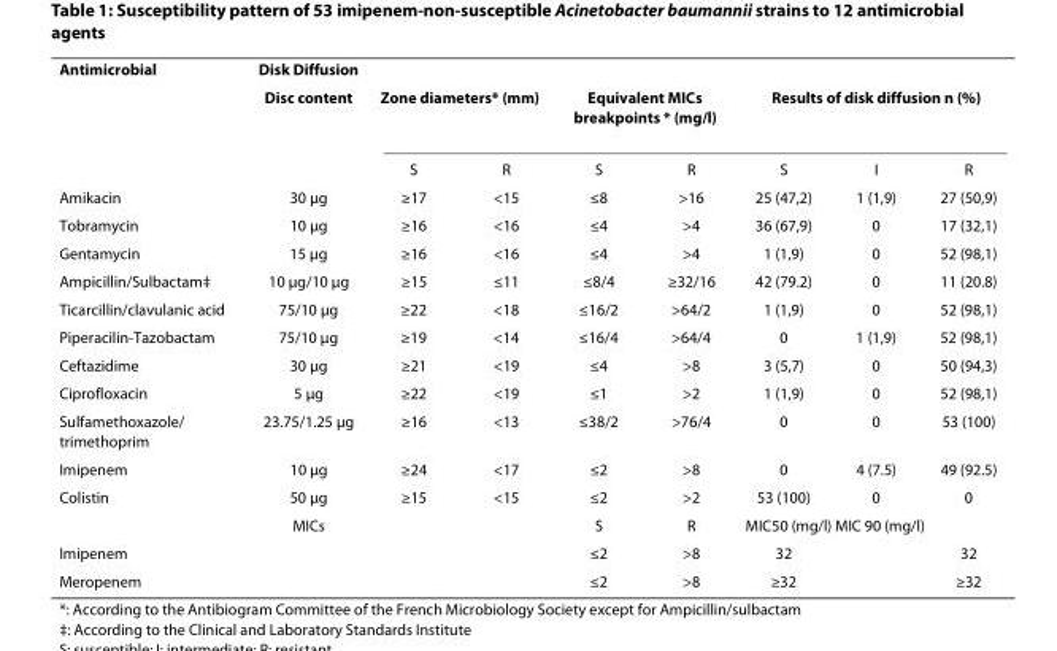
<table><tbody><tr><td rowspan="3">Antimicrobial</td><td>Disk Diffusion</td><td></td><td></td><td></td><td></td><td></td><td></td><td></td></tr><tr><td>Disc content</td><td colspan="2">Zone diameters* (mm)</td><td colspan="2">Equivalent MICs breakpoints * (mg/l)</td><td colspan="3">Results of disk diffusion n (%)</td></tr><tr><td></td><td>S</td><td>R</td><td>S</td><td>R</td><td>S</td><td>I</td><td>R</td></tr><tr><td>Amikacin</td><td>30 μg</td><td>≥17</td><td>&lt;15</td><td>≤8</td><td>&gt;16</td><td>25 (47,2)</td><td>1 (1,9)</td><td>27 (50,9)</td></tr><tr><td>Tobramycin</td><td>10 μg</td><td>≥16</td><td>&lt;16</td><td>≤4</td><td>&gt;4</td><td>36 (67,9)</td><td>0</td><td>17 (32,1)</td></tr><tr><td>Gentamycin</td><td>15 μg</td><td>≥16</td><td>&lt;16</td><td>≤4</td><td>&gt;4</td><td>1 (1,9)</td><td>0</td><td>52 (98,1)</td></tr><tr><td>Ampicillin/Sulbactam‡</td><td>10 μg/10 μg</td><td>≥15</td><td>≤11</td><td>≤8/4</td><td>≥32/16</td><td>42 (79.2)</td><td>0</td><td>11 (20.8)</td></tr><tr><td>Ticarcillin/clavulanic acid</td><td>75/10 μg</td><td>≥22</td><td>&lt;18</td><td>≤16/2</td><td>&gt;64/2</td><td>1 (1,9)</td><td>0</td><td>52 (98,1)</td></tr><tr><td>Piperacilin-Tazobactam</td><td>75/10 μg</td><td>≥19</td><td>&lt;14</td><td>≤16/4</td><td>&gt;64/4</td><td>0</td><td>1 (1,9)</td><td>52 (98,1)</td></tr><tr><td>Ceftazidime</td><td>30 μg</td><td>≥21</td><td>&lt;19</td><td>≤4</td><td>&gt;8</td><td>3 (5,7)</td><td>0</td><td>50 (94,3)</td></tr><tr><td>Ciprofloxacin</td><td>5 μg</td><td>≥22</td><td>&lt;19</td><td>≤1</td><td>&gt;2</td><td>1 (1,9)</td><td>0</td><td>52 (98,1)</td></tr><tr><td>Sulfamethoxazole/ trimethoprim</td><td>23.75/1.25 μg</td><td>≥16</td><td>&lt;13</td><td>≤38/2</td><td>&gt;76/4</td><td>0</td><td>0</td><td>53 (100)</td></tr><tr><td>Imipenem</td><td>10 μg</td><td>≥24</td><td>&lt;17</td><td>≤2</td><td>&gt;8</td><td>0</td><td>4 (7.5)</td><td>49 (92.5)</td></tr><tr><td rowspan="2">Colistin</td><td>50 μg</td><td>≥15</td><td>&lt;15</td><td>≤2</td><td>&gt;2</td><td>53 (100)</td><td>0</td><td>0</td></tr><tr><td>MICs</td><td></td><td></td><td>S</td><td>R</td><td colspan="3">MIC50 (mg/l) MIC 90 (mg/l)</td></tr><tr><td>Imipenem</td><td></td><td></td><td></td><td>≤2</td><td>&gt;8</td><td>32</td><td></td><td>32</td></tr><tr><td>Meropenem</td><td></td><td></td><td></td><td>≤2</td><td>&gt;8</td><td>≥32</td><td></td><td>≥32</td></tr></tbody></table>